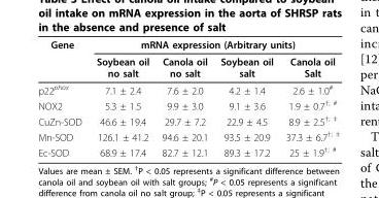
<table><thead><tr><td rowspan="2">Gene</td><td colspan="4">mRNA expression (Arbitrary units)</td></tr><tr><td>Soybean oil no salt</td><td>Canola oil no salt</td><td>Soybean oil salt</td><td>Canola oil Salt</td></tr></thead><tbody><tr><td>p22<sup>phox</sup></td><td>7.1 ± 2.4</td><td>7.6 ± 2.0</td><td>4.2 ± 1.4</td><td>2.6 ± 1.0<sup>#</sup></td></tr><tr><td>NOX2</td><td>5.3 ± 1.5</td><td>9.9 ± 3.0</td><td>9.1 ± 3.6</td><td>1.9 ± 0.7<sup>†; #</sup></td></tr><tr><td>CuZn-SOD</td><td>46.6 ± 19.4</td><td>29.7 ± 7.2</td><td>22.9 ± 4.5</td><td>8.9 ± 2.5<sup>†; ‡</sup></td></tr><tr><td>Mn-SOD</td><td>126.1 ± 41.2</td><td>94.6 ± 20.1</td><td>93.5 ± 20.9</td><td>37.3 ± 6.7<sup>†; ‡</sup></td></tr><tr><td>Ec-SOD</td><td>68.9 ± 17.4</td><td>82.7 ± 12.1</td><td>89.3 ± 17.2</td><td>25 ± 1.9<sup>†; #</sup></td></tr></tbody></table>